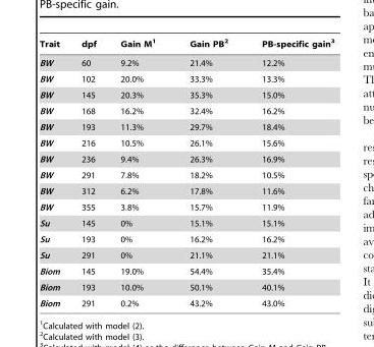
<table><thead><tr><td>Trait</td><td>dpf</td><td>Gain M<sup>1</sup></td><td>Gain PB<sup>2</sup></td><td>PB-specific gain<sup>3</sup></td></tr></thead><tbody><tr><td>BW</td><td>60</td><td>9.2%</td><td>21.4%</td><td>12.2%</td></tr><tr><td>BW</td><td>102</td><td>20.0%</td><td>33.3%</td><td>13.3%</td></tr><tr><td>BW</td><td>145</td><td>20.3%</td><td>35.3%</td><td>15.0%</td></tr><tr><td>BW</td><td>168</td><td>16.2%</td><td>32.4%</td><td>16.2%</td></tr><tr><td>BW</td><td>193</td><td>11.3%</td><td>29.7%</td><td>18.4%</td></tr><tr><td>BW</td><td>216</td><td>10.5%</td><td>26.1%</td><td>15.6%</td></tr><tr><td>BW</td><td>236</td><td>9.4%</td><td>26.3%</td><td>16.9%</td></tr><tr><td>BW</td><td>291</td><td>7.8%</td><td>18.2%</td><td>10.5%</td></tr><tr><td>BW</td><td>312</td><td>6.2%</td><td>17.8%</td><td>11.6%</td></tr><tr><td>BW</td><td>355</td><td>3.8%</td><td>15.7%</td><td>11.9%</td></tr><tr><td>Su</td><td>145</td><td>0%</td><td>15.1%</td><td>15.1%</td></tr><tr><td>Su</td><td>193</td><td>0%</td><td>16.2%</td><td>16.2%</td></tr><tr><td>Su</td><td>291</td><td>0%</td><td>21.1%</td><td>21.1%</td></tr><tr><td>Biom</td><td>145</td><td>19.0%</td><td>54.4%</td><td>35.4%</td></tr><tr><td>Biom</td><td>193</td><td>10.0%</td><td>50.1%</td><td>40.1%</td></tr><tr><td>Biom</td><td>291</td><td>0.2%</td><td>43.2%</td><td>43.0%</td></tr></tbody></table>